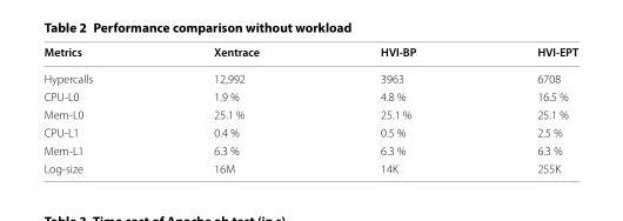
<table><thead><tr><td>Metrics</td><td>Xentrace</td><td>HVI‑BP</td><td>HVI‑EPT</td></tr></thead><tbody><tr><td>Hypercalls</td><td>12,992</td><td>3963</td><td>6708</td></tr><tr><td>CPU-L0</td><td>1.9 %</td><td>4.8 %</td><td>16.5 %</td></tr><tr><td>Mem-L0</td><td>25.1 %</td><td>25.1 %</td><td>25.1 %</td></tr><tr><td>CPU-L1</td><td>0.4 %</td><td>0.5 %</td><td>2.5 %</td></tr><tr><td>Mem-L1</td><td>6.3 %</td><td>6.3 %</td><td>6.3 %</td></tr><tr><td>Log-size</td><td>16M</td><td>14K</td><td>255K</td></tr></tbody></table>